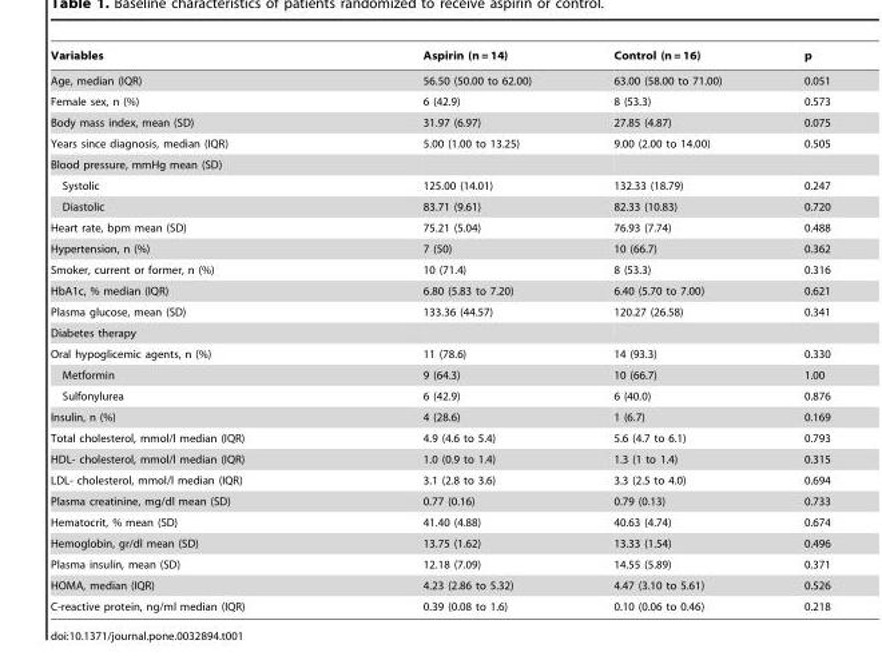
<table><thead><tr><td>Variables</td><td>Aspirin (n = 14)</td><td>Control (n = 16)</td><td>p</td></tr></thead><tbody><tr><td>Age, median (IQR)</td><td>56.50 (50.00 to 62.00)</td><td>63.00 (58.00 to 71.00)</td><td>0.051</td></tr><tr><td>Female sex, n (%)</td><td>6 (42.9)</td><td>8 (53.3)</td><td>0.573</td></tr><tr><td>Body mass index, mean (SD)</td><td>31.97 (6.97)</td><td>27.85 (4.87)</td><td>0.075</td></tr><tr><td>Years since diagnosis, median (IQR)</td><td>5.00 (1.00 to 13.25)</td><td>9.00 (2.00 to 14.00)</td><td>0.505</td></tr><tr><td colspan="4">Blood pressure, mmHg mean (SD)</td></tr><tr><td>Systolic</td><td>125.00 (14.01)</td><td>132.33 (18.79)</td><td>0.247</td></tr><tr><td>Diastolic</td><td>83.71 (9.61)</td><td>82.33 (10.83)</td><td>0.720</td></tr><tr><td>Heart rate, bpm mean (SD)</td><td>75.21 (5.04)</td><td>76.93 (7.74)</td><td>0.488</td></tr><tr><td>Hypertension, n (%)</td><td>7 (50)</td><td>10 (66.7)</td><td>0.362</td></tr><tr><td>Smoker, current or former, n (%)</td><td>10 (71.4)</td><td>8 (53.3)</td><td>0.316</td></tr><tr><td>HbA1c, % median (IQR)</td><td>6.80 (5.83 to 7.20)</td><td>6.40 (5.70 to 7.00)</td><td>0.621</td></tr><tr><td>Plasma glucose, mean (SD)</td><td>133.36 (44.57)</td><td>120.27 (26.58)</td><td>0.341</td></tr><tr><td colspan="4">Diabetes therapy</td></tr><tr><td>Oral hypoglicemic agents, n (%)</td><td>11 (78.6)</td><td>14 (93.3)</td><td>0.330</td></tr><tr><td>Metformin</td><td>9 (64.3)</td><td>10 (66.7)</td><td>1.00</td></tr><tr><td>Sulfonylurea</td><td>6 (42.9)</td><td>6 (40.0)</td><td>0.876</td></tr><tr><td>Insulin, n (%)</td><td>4 (28.6)</td><td>1 (6.7)</td><td>0.169</td></tr><tr><td>Total cholesterol, mmol/l median (IQR)</td><td>4.9 (4.6 to 5.4)</td><td>5.6 (4.7 to 6.1)</td><td>0.793</td></tr><tr><td>HDL- cholesterol, mmol/l median (IQR)</td><td>1.0 (0.9 to 1.4)</td><td>1.3 (1 to 1.4)</td><td>0.315</td></tr><tr><td>LDL- cholesterol, mmol/l median (IQR)</td><td>3.1 (2.8 to 3.6)</td><td>3.3 (2.5 to 4.0)</td><td>0.694</td></tr><tr><td>Plasma creatinine, mg/dl mean (SD)</td><td>0.77 (0.16)</td><td>0.79 (0.13)</td><td>0.733</td></tr><tr><td>Hematocrit, % mean (SD)</td><td>41.40 (4.88)</td><td>40.63 (4.74)</td><td>0.674</td></tr><tr><td>Hemoglobin, gr/dl mean (SD)</td><td>13.75 (1.62)</td><td>13.33 (1.54)</td><td>0.496</td></tr><tr><td>Plasma insulin, mean (SD)</td><td>12.18 (7.09)</td><td>14.55 (5.89)</td><td>0.371</td></tr><tr><td>HOMA, median (IQR)</td><td>4.23 (2.86 to 5.32)</td><td>4.47 (3.10 to 5.61)</td><td>0.526</td></tr><tr><td>C-reactive protein, ng/ml median (IQR)</td><td>0.39 (0.08 to 1.6)</td><td>0.10 (0.06 to 0.46)</td><td>0.218</td></tr></tbody></table>